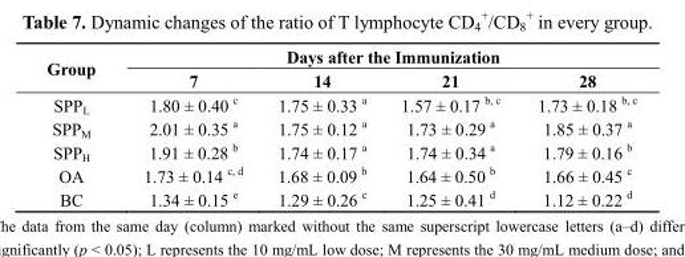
<table><thead><tr><td rowspan="2">Group</td><td colspan="4">Days after the Immunization</td></tr><tr><td>7</td><td>14</td><td>21</td><td>28</td></tr></thead><tbody><tr><td>SPP<sub>L</sub></td><td>1.80 ± 0.40 <sup>c</sup></td><td>1.75 ± 0.33 <sup>a</sup></td><td>1.57 ± 0.17 <sup>b, c</sup></td><td>1.73 ± 0.18 <sup>b, c</sup></td></tr><tr><td>SPP<sub>M</sub></td><td>2.01 ± 0.35 <sup>a</sup></td><td>1.75 ± 0.12 <sup>a</sup></td><td>1.73 ± 0.29 <sup>a</sup></td><td>1.85 ± 0.37 <sup>a</sup></td></tr><tr><td>SPP<sub>H</sub></td><td>1.91 ± 0.28 <sup>b</sup></td><td>1.74 ± 0.17 <sup>a</sup></td><td>1.74 ± 0.34 <sup>a</sup></td><td>1.79 ± 0.16 <sup>b</sup></td></tr><tr><td>OA</td><td>1.73 ± 0.14 <sup>c, d</sup></td><td>1.68 ± 0.09 <sup>b</sup></td><td>1.64 ± 0.50 <sup>b</sup></td><td>1.66 ± 0.45 <sup>c</sup></td></tr><tr><td>BC</td><td>1.34 ± 0.15 <sup>e</sup></td><td>1.29 ± 0.26 <sup>c</sup></td><td>1.25 ± 0.41 <sup>d</sup></td><td>1.12 ± 0.22 <sup>d</sup></td></tr></tbody></table>